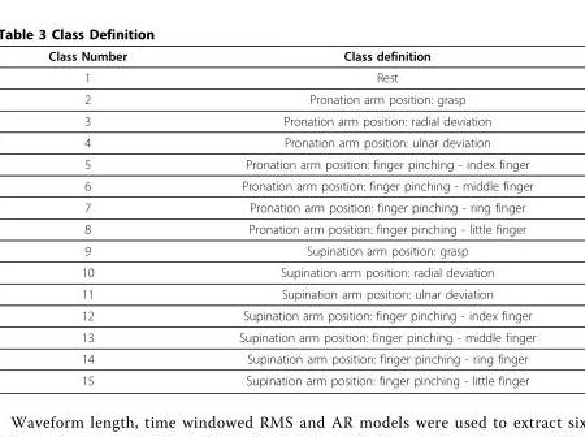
<table><thead><tr><td>Class Number</td><td>Class definition</td></tr></thead><tbody><tr><td>1</td><td>Rest</td></tr><tr><td>2</td><td>Pronation arm position: grasp</td></tr><tr><td>3</td><td>Pronation arm position: radial deviation</td></tr><tr><td>4</td><td>Pronation arm position: ulnar deviation</td></tr><tr><td>5</td><td>Pronation arm position: finger pinching - index finger</td></tr><tr><td>6</td><td>Pronation arm position: finger pinching - middle finger</td></tr><tr><td>7</td><td>Pronation arm position: finger pinching - ring finger</td></tr><tr><td>8</td><td>Pronation arm position: finger pinching - little finger</td></tr><tr><td>9</td><td>Supination arm position: grasp</td></tr><tr><td>10</td><td>Supination arm position: radial deviation</td></tr><tr><td>11</td><td>Supination arm position: ulnar deviation</td></tr><tr><td>12</td><td>Supination arm position: finger pinching - index finger</td></tr><tr><td>13</td><td>Supination arm position: finger pinching - middle finger</td></tr><tr><td>14</td><td>Supination arm position: finger pinching - ring finger</td></tr><tr><td>15</td><td>Supination arm position: finger pinching - little finger</td></tr></tbody></table>